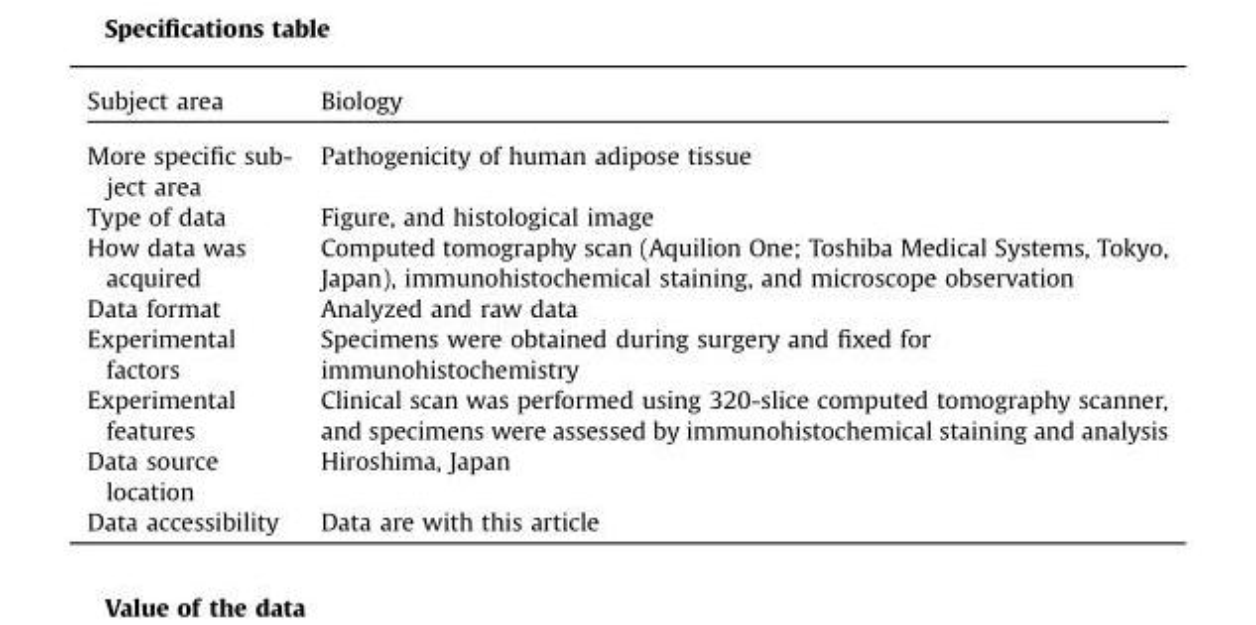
<table><tbody><tr><td>Subject area</td><td>Biology</td></tr><tr><td>More specific sub- ject area</td><td>Pathogenicity of human adipose tissue</td></tr><tr><td>Type of data</td><td>Figure, and histological image</td></tr><tr><td>How data was acquired</td><td>Computed tomography scan (Aquilion One; Toshiba Medical Systems, Tokyo, Japan), immunohistochemical staining, and microscope observation</td></tr><tr><td>Data format</td><td>Analyzed and raw data</td></tr><tr><td>Experimental factors</td><td>Specimens were obtained during surgery and fixed for immunohistochemistry</td></tr><tr><td>Experimental features</td><td>Clinical scan was performed using 320-slice computed tomography scanner, and specimens were assessed by immunohistochemical staining and analysis</td></tr><tr><td>Data source location</td><td>Hiroshima, Japan</td></tr><tr><td>Data accessibility</td><td>Data are with this article</td></tr></tbody></table>